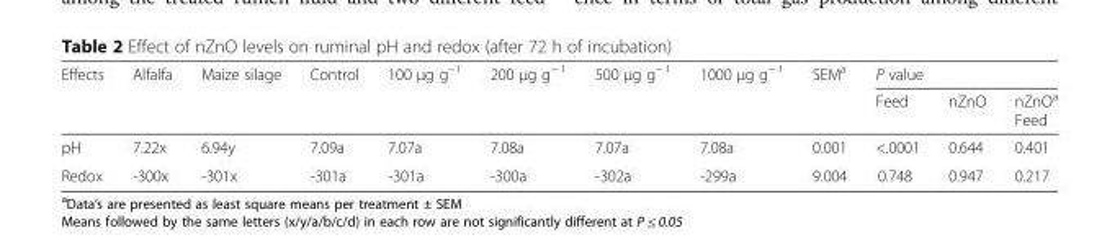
<table><thead><tr><td rowspan="2">Effects</td><td rowspan="2">Alfalfa</td><td rowspan="2">Maize silage</td><td rowspan="2">Control</td><td rowspan="2">100 μg g<sup>−1</sup></td><td rowspan="2">200 μg g<sup>− 1</sup></td><td rowspan="2">500 μg g<sup>− 1</sup></td><td rowspan="2">1000 μg g<sup>− 1</sup></td><td rowspan="2">SEM<sup>a</sup></td><td colspan="3">P value</td></tr><tr><td>Feed</td><td>nZnO</td><td>nZnO<sup>a</sup> Feed</td></tr></thead><tbody><tr><td>pH</td><td>7.22x</td><td>6.94y</td><td>7.09a</td><td>7.07a</td><td>7.08a</td><td>7.07a</td><td>7.08a</td><td>0.001</td><td>&lt;.0001</td><td>0.644</td><td>0.401</td></tr><tr><td>Redox</td><td>-300x</td><td>-301x</td><td>-301a</td><td>-301a</td><td>-300a</td><td>-302a</td><td>-299a</td><td>9.004</td><td>0.748</td><td>0.947</td><td>0.217</td></tr></tbody></table>